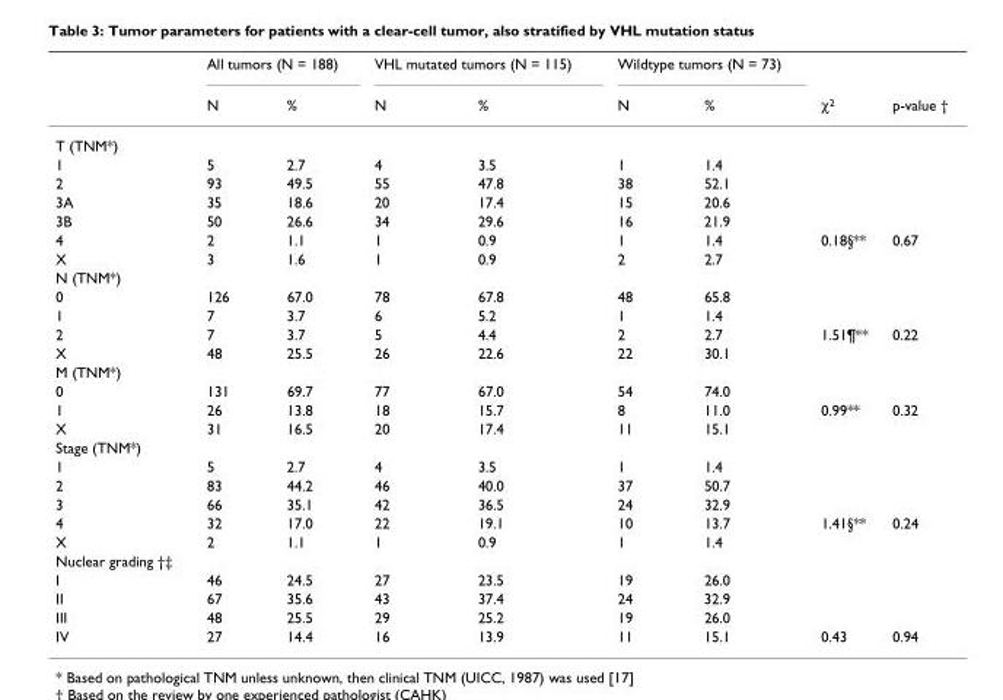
<table><thead><tr><td rowspan="2"></td><td colspan="2">All tumors (N = 188)</td><td colspan="2">VHL mutated tumors (N = 115)</td><td colspan="2">Wildtype tumors (N = 73)</td><td rowspan="2">χ2</td><td rowspan="2">p-value †</td></tr><tr><td>N</td><td>%</td><td>N</td><td>%</td><td>N</td><td>%</td></tr></thead><tbody><tr><td colspan="9">T (TNM*)</td></tr><tr><td>1</td><td>5</td><td>2.7</td><td>4</td><td>3.5</td><td>1</td><td>1.4</td><td></td><td></td></tr><tr><td>2</td><td>93</td><td>49.5</td><td>55</td><td>47.8</td><td>38</td><td>52.1</td><td></td><td></td></tr><tr><td>3A</td><td>35</td><td>18.6</td><td>20</td><td>17.4</td><td>15</td><td>20.6</td><td></td><td></td></tr><tr><td>3B</td><td>50</td><td>26.6</td><td>34</td><td>29.6</td><td>16</td><td>21.9</td><td></td><td></td></tr><tr><td>4</td><td>2</td><td>1.1</td><td>1</td><td>0.9</td><td>1</td><td>1.4</td><td>0.18§**</td><td>0.67</td></tr><tr><td>X</td><td>3</td><td>1.6</td><td>1</td><td>0.9</td><td>2</td><td>2.7</td><td></td><td></td></tr><tr><td colspan="9">N (TNM*)</td></tr><tr><td>0</td><td>126</td><td>67.0</td><td>78</td><td>67.8</td><td>48</td><td>65.8</td><td></td><td></td></tr><tr><td>1</td><td>7</td><td>3.7</td><td>6</td><td>5.2</td><td>1</td><td>1.4</td><td></td><td></td></tr><tr><td>2</td><td>7</td><td>3.7</td><td>5</td><td>4.4</td><td>2</td><td>2.7</td><td>1.51¶**</td><td>0.22</td></tr><tr><td>X</td><td>48</td><td>25.5</td><td>26</td><td>22.6</td><td>22</td><td>30.1</td><td></td><td></td></tr><tr><td colspan="9">M (TNM*)</td></tr><tr><td>0</td><td>131</td><td>69.7</td><td>77</td><td>67.0</td><td>54</td><td>74.0</td><td></td><td></td></tr><tr><td>1</td><td>26</td><td>13.8</td><td>18</td><td>15.7</td><td>8</td><td>11.0</td><td>0.99**</td><td>0.32</td></tr><tr><td>X</td><td>31</td><td>16.5</td><td>20</td><td>17.4</td><td>11</td><td>15.1</td><td></td><td></td></tr><tr><td colspan="9">Stage (TNM*)</td></tr><tr><td>1</td><td>5</td><td>2.7</td><td>4</td><td>3.5</td><td>1</td><td>1.4</td><td></td><td></td></tr><tr><td>2</td><td>83</td><td>44.2</td><td>46</td><td>40.0</td><td>37</td><td>50.7</td><td></td><td></td></tr><tr><td>3</td><td>66</td><td>35.1</td><td>42</td><td>36.5</td><td>24</td><td>32.9</td><td></td><td></td></tr><tr><td>4</td><td>32</td><td>17.0</td><td>22</td><td>19.1</td><td>10</td><td>13.7</td><td>1.41§**</td><td>0.24</td></tr><tr><td>X</td><td>2</td><td>1.1</td><td>1</td><td>0.9</td><td>1</td><td>1.4</td><td></td><td></td></tr><tr><td colspan="9">Nuclear grading †‡</td></tr><tr><td>I</td><td>46</td><td>24.5</td><td>27</td><td>23.5</td><td>19</td><td>26.0</td><td></td><td></td></tr><tr><td>II</td><td>67</td><td>35.6</td><td>43</td><td>37.4</td><td>24</td><td>32.9</td><td></td><td></td></tr><tr><td>III</td><td>48</td><td>25.5</td><td>29</td><td>25.2</td><td>19</td><td>26.0</td><td></td><td></td></tr><tr><td>IV</td><td>27</td><td>14.4</td><td>16</td><td>13.9</td><td>11</td><td>15.1</td><td>0.43</td><td>0.94</td></tr></tbody></table>